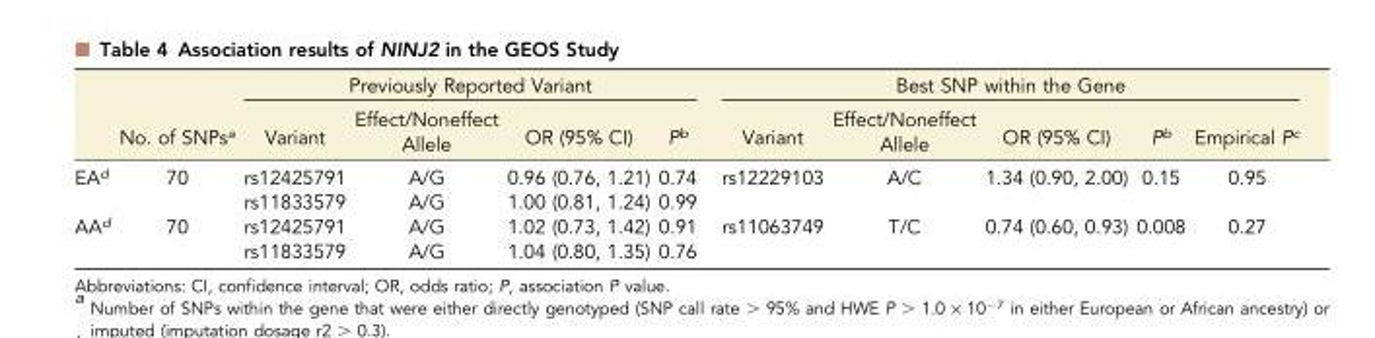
<table><thead><tr><td rowspan="2"></td><td rowspan="2">No. of SNPs<sup>a</sup></td><td colspan="4">Previously Reported Variant</td><td colspan="5">Best SNP within the Gene</td></tr><tr><td>Variant</td><td>Effect/Noneffect Allele</td><td>OR (95% CI)</td><td>P<sup>b</sup></td><td>Variant</td><td>Effect/Noneffect Allele</td><td>OR (95% CI)</td><td>P<sup>b</sup></td><td>Empirical P<sup>c</sup></td></tr></thead><tbody><tr><td rowspan="2">EA<sup>d</sup></td><td rowspan="2">70</td><td>rs12425791</td><td>A/G</td><td>0.96 (0.76, 1.21)</td><td>0.74</td><td rowspan="2">rs12229103</td><td rowspan="2">A/C</td><td rowspan="2">1.34 (0.90, 2.00)</td><td rowspan="2">0.15</td><td rowspan="2">0.95</td></tr><tr><td>rs11833579</td><td>A/G</td><td>1.00 (0.81, 1.24)</td><td>0.99</td></tr><tr><td rowspan="2">AA<sup>d</sup></td><td rowspan="2">70</td><td>rs12425791</td><td>A/G</td><td>1.02 (0.73, 1.42)</td><td>0.91</td><td rowspan="2">rs11063749</td><td rowspan="2">T/C</td><td rowspan="2">0.74 (0.60, 0.93)</td><td rowspan="2">0.008</td><td rowspan="2">0.27</td></tr><tr><td>rs11833579</td><td>A/G</td><td>1.04 (0.80, 1.35)</td><td>0.76</td></tr></tbody></table>